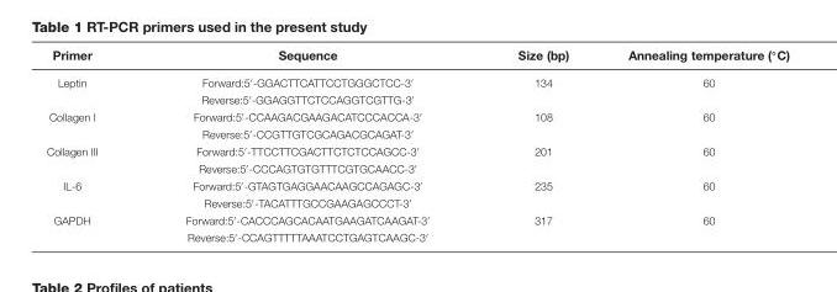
<table><thead><tr><td>Primer</td><td>Sequence</td><td>Size (bp)</td><td>Annealing temperature (◦C)</td></tr></thead><tbody><tr><td rowspan="2">Leptin</td><td>Forward:5′-GGACTTCATTCCTGGGCTCC-3′</td><td>134</td><td>60</td></tr><tr><td>Reverse:5′-GGAGGTTCTCCAGGTCGTTG-3′</td><td></td><td></td></tr><tr><td rowspan="2">Collagen I</td><td>Forward:5′-CCAAGACGAAGACATCCCACCA-3′</td><td>108</td><td>60</td></tr><tr><td>Reverse:5′-CCGTTGTCGCAGACGCAGAT-3′</td><td></td><td></td></tr><tr><td rowspan="2">Collagen III</td><td>Forward:5′-TTCCTTCGACTTCTCTCCAGCC-3′</td><td>201</td><td>60</td></tr><tr><td>Reverse:5′-CCCAGTGTGTTTCGTGCAACC-3′</td><td></td><td></td></tr><tr><td rowspan="2">IL-6</td><td>Forward:5′-GTAGTGAGGAACAAGCCAGAGC-3′</td><td>235</td><td>60</td></tr><tr><td>Reverse:5′-TACATTTGCCGAAGAGCCCT-3′</td><td></td><td></td></tr><tr><td rowspan="2">GAPDH</td><td>Forward:5′-CACCCAGCACAATGAAGATCAAGAT-3′</td><td>317</td><td>60</td></tr><tr><td>Reverse:5′-CCAGTTTTTAAATCCTGAGTCAAGC-3′</td><td></td><td></td></tr></tbody></table>